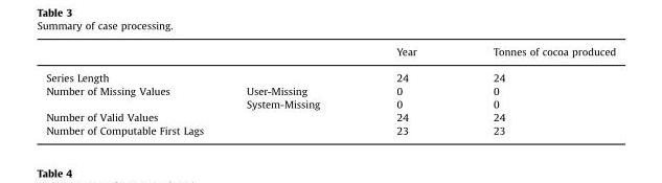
<table><thead><tr><td></td><td></td><td>Year</td><td>Tonnes of cocoa produced</td></tr></thead><tbody><tr><td colspan="2">Series Length</td><td>24</td><td>24</td></tr><tr><td rowspan="2">Number of Missing Values</td><td>User-Missing</td><td>0</td><td>0</td></tr><tr><td>System-Missing</td><td>0</td><td>0</td></tr><tr><td colspan="2">Number of Valid Values</td><td>24</td><td>24</td></tr><tr><td colspan="2">Number of Computable First Lags</td><td>23</td><td>23</td></tr></tbody></table>